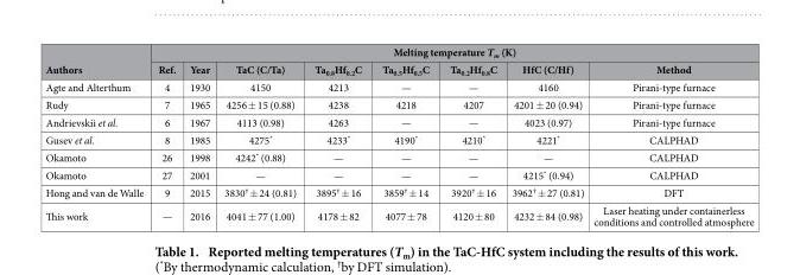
<table><thead><tr><td rowspan="2">Authors</td><td colspan="8">Melting temperature T<sub>m</sub> (K)</td></tr><tr><td>Ref.</td><td>Year</td><td>TaC (C/Ta)</td><td>Ta<sub>0.8</sub>Hf<sub>0.2</sub>C</td><td>Ta<sub>0.5</sub>Hf<sub>0.5</sub>C</td><td>Ta<sub>0.2</sub>Hf<sub>0.8</sub>C</td><td>HfC (C/Hf)</td><td>Method</td></tr></thead><tbody><tr><td>Agte and Alterthum</td><td>4</td><td>1930</td><td>4150</td><td>4213</td><td>—</td><td>—</td><td>4160</td><td>Pirani-type furnace</td></tr><tr><td>Rudy</td><td>7</td><td>1965</td><td>4256 ± 15 (0.88)</td><td>4238</td><td>4218</td><td>4207</td><td>4201 ± 20 (0.94)</td><td>Pirani-type furnace</td></tr><tr><td>Andrievskii et al.</td><td>6</td><td>1967</td><td>4113 (0.98)</td><td>4263</td><td>—</td><td>—</td><td>4023 (0.97)</td><td>Pirani-type furnace</td></tr><tr><td>Gusev et al.</td><td>8</td><td>1985</td><td>4275*</td><td>4233*</td><td>4190*</td><td>4210*</td><td>4221*</td><td>CALPHAD</td></tr><tr><td>Okamoto</td><td>26</td><td>1998</td><td>4242* (0.88)</td><td>—</td><td>—</td><td>—</td><td>—</td><td>CALPHAD</td></tr><tr><td>Okamoto</td><td>27</td><td>2001</td><td>—</td><td>—</td><td>—</td><td>—</td><td>4215* (0.94)</td><td>CALPHAD</td></tr><tr><td>Hong and van de Walle</td><td>9</td><td>2015</td><td>3830<sup>†</sup> ± 24 (0.81)</td><td>3895<sup>†</sup> ± 16</td><td>3859<sup>†</sup> ± 14</td><td>3920<sup>†</sup> ± 16</td><td>3962<sup>†</sup> ± 27 (0.81)</td><td>DFT</td></tr><tr><td>This work</td><td>—</td><td>2016</td><td>4041 ± 77 (1.00)</td><td>4178 ± 82</td><td>4077 ± 78</td><td>4120 ± 80</td><td>4232 ± 84 (0.98)</td><td>Laser heating under containerless conditions and controlled atmosphere</td></tr></tbody></table>